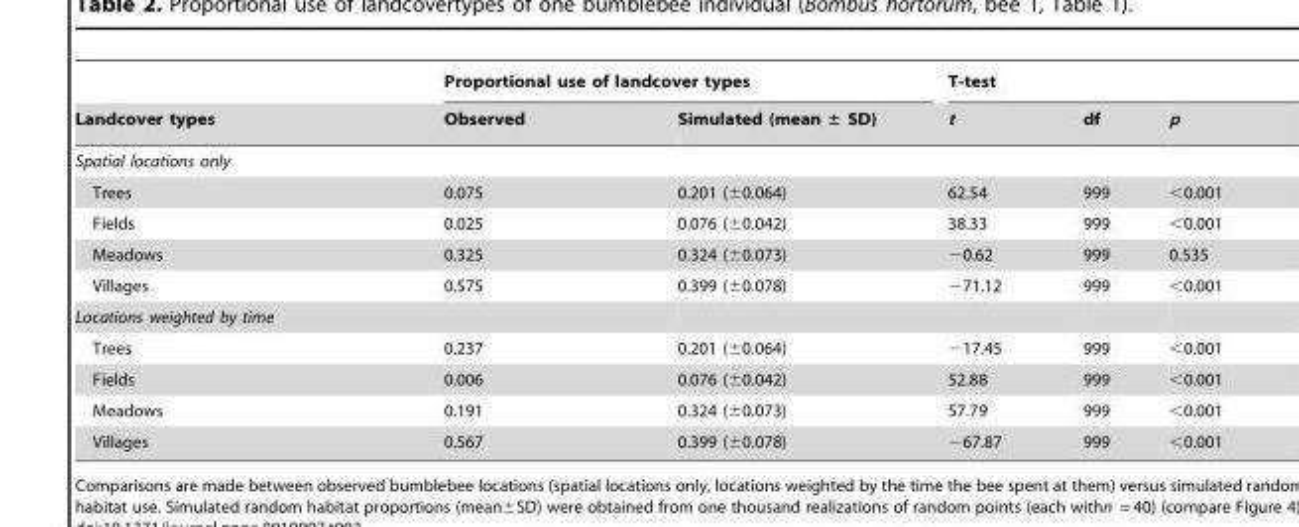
<table><thead><tr><td rowspan="2">Landcover types</td><td colspan="2">Proportional use of landcover types</td><td colspan="3">T-test</td></tr><tr><td>Observed</td><td>Simulated (mean ± SD)</td><td>t</td><td>df</td><td>p</td></tr></thead><tbody><tr><td colspan="6">Spatial locations only</td></tr><tr><td>Trees</td><td>0.075</td><td>0.201 (±0.064)</td><td>62.54</td><td>999</td><td>&lt;0.001</td></tr><tr><td>Fields</td><td>0.025</td><td>0.076 (±0.042)</td><td>38.33</td><td>999</td><td>&lt;0.001</td></tr><tr><td>Meadows</td><td>0.325</td><td>0.324 (±0.073)</td><td>−0.62</td><td>999</td><td>0.535</td></tr><tr><td>Villages</td><td>0.575</td><td>0.399 (±0.078)</td><td>−71.12</td><td>999</td><td>&lt;0.001</td></tr><tr><td colspan="6">Locations weighted by time</td></tr><tr><td>Trees</td><td>0.237</td><td>0.201 (±0.064)</td><td>−17.45</td><td>999</td><td>&lt;0.001</td></tr><tr><td>Fields</td><td>0.006</td><td>0.076 (±0.042)</td><td>52.88</td><td>999</td><td>&lt;0.001</td></tr><tr><td>Meadows</td><td>0.191</td><td>0.324 (±0.073)</td><td>57.79</td><td>999</td><td>&lt;0.001</td></tr><tr><td>Villages</td><td>0.567</td><td>0.399 (±0.078)</td><td>−67.87</td><td>999</td><td>&lt;0.001</td></tr></tbody></table>